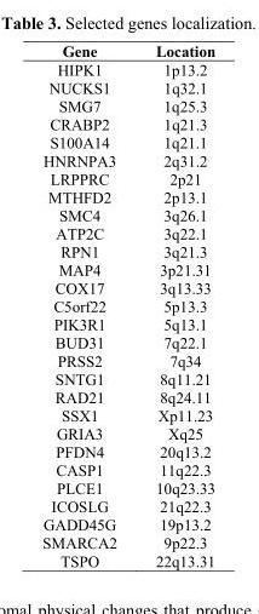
<table><thead><tr><td>Gene</td><td>Location</td></tr></thead><tbody><tr><td>HIPK1</td><td>1p13.2</td></tr><tr><td>NUCKS1</td><td>1q32.1</td></tr><tr><td>SMG7</td><td>1q25.3</td></tr><tr><td>CRABP2</td><td>1q21.3</td></tr><tr><td>S100A14</td><td>1q21.1</td></tr><tr><td>HNRNPA3</td><td>2q31.2</td></tr><tr><td>LRPPRC</td><td>2p21</td></tr><tr><td>MTHFD2</td><td>2p13.1</td></tr><tr><td>SMC4</td><td>3q26.1</td></tr><tr><td>ATP2C</td><td>3q22.1</td></tr><tr><td>RPN1</td><td>3q21.3</td></tr><tr><td>MAP4</td><td>3p21.31</td></tr><tr><td>COX17</td><td>3q13.33</td></tr><tr><td>C5orf22</td><td>5p13.3</td></tr><tr><td>PIK3R1</td><td>5q13.1</td></tr><tr><td>BUD31</td><td>7q22.1</td></tr><tr><td>PRSS2</td><td>7q34</td></tr><tr><td>SNTG1</td><td>8q11.21</td></tr><tr><td>RAD21</td><td>8q24.11</td></tr><tr><td>SSX1</td><td>Xp11.23</td></tr><tr><td>GRIA3</td><td>Xq25</td></tr><tr><td>PFDN4</td><td>20q13.2</td></tr><tr><td>CASP1</td><td>11q22.3</td></tr><tr><td>PLCE1</td><td>10q23.33</td></tr><tr><td>ICOSLG</td><td>21q22.3</td></tr><tr><td>GADD45G</td><td>19p13.2</td></tr><tr><td>SMARCA2</td><td>9p22.3</td></tr><tr><td>TSPO</td><td>22q13.31</td></tr></tbody></table>